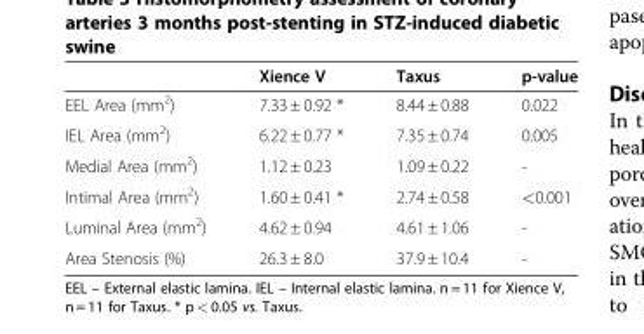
<table><thead><tr><td></td><td>Xience V</td><td>Taxus</td><td>p-value</td></tr></thead><tbody><tr><td>EEL Area (mm<sup>2</sup>)</td><td>7.33 ± 0.92 *</td><td>8.44 ± 0.88</td><td>0.022</td></tr><tr><td>IEL Area (mm<sup>2</sup>)</td><td>6.22 ± 0.77 *</td><td>7.35 ± 0.74</td><td>0.005</td></tr><tr><td>Medial Area (mm<sup>2</sup>)</td><td>1.12 ± 0.23</td><td>1.09 ± 0.22</td><td>-</td></tr><tr><td>Intimal Area (mm<sup>2</sup>)</td><td>1.60 ± 0.41 *</td><td>2.74 ± 0.58</td><td>&lt;0.001</td></tr><tr><td>Luminal Area (mm<sup>2</sup>)</td><td>4.62 ± 0.94</td><td>4.61 ± 1.06</td><td>-</td></tr><tr><td>Area Stenosis (%)</td><td>26.3 ± 8.0</td><td>37.9 ± 10.4</td><td>-</td></tr></tbody></table>